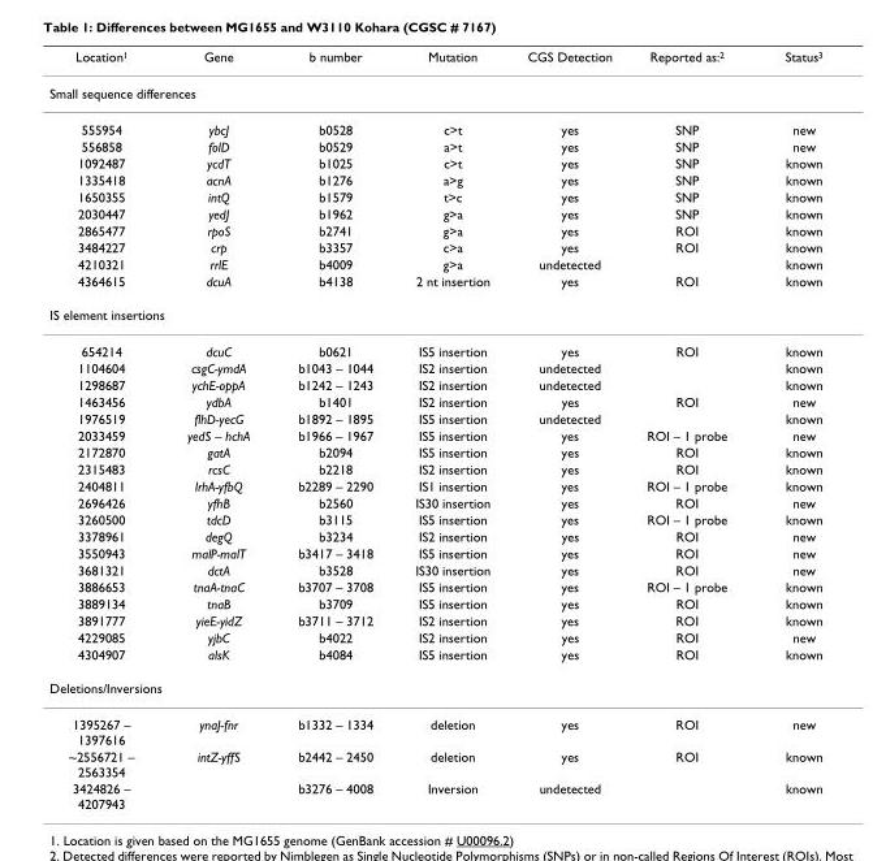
<table><thead><tr><td>Location<sup>1</sup></td><td>Gene</td><td>b number</td><td>Mutation</td><td>CGS Detection</td><td>Reported as:<sup>2</sup></td><td>Status<sup>3</sup></td></tr></thead><tbody><tr><td colspan="7">Small sequence differences</td></tr><tr><td>555954</td><td>ybcJ</td><td>b0528</td><td>c&gt;t</td><td>yes</td><td>SNP</td><td>new</td></tr><tr><td>556858</td><td>folD</td><td>b0529</td><td>a&gt;t</td><td>yes</td><td>SNP</td><td>new</td></tr><tr><td>1092487</td><td>ycdT</td><td>b1025</td><td>c&gt;t</td><td>yes</td><td>SNP</td><td>known</td></tr><tr><td>1335418</td><td>acnA</td><td>b1276</td><td>a&gt;g</td><td>yes</td><td>SNP</td><td>known</td></tr><tr><td>1650355</td><td>intQ</td><td>b1579</td><td>t&gt;c</td><td>yes</td><td>SNP</td><td>known</td></tr><tr><td>2030447</td><td>yedJ</td><td>b1962</td><td>g&gt;a</td><td>yes</td><td>SNP</td><td>known</td></tr><tr><td>2865477</td><td>rpoS</td><td>b2741</td><td>g&gt;a</td><td>yes</td><td>ROI</td><td>known</td></tr><tr><td>3484227</td><td>crp</td><td>b3357</td><td>c&gt;a</td><td>yes</td><td>ROI</td><td>known</td></tr><tr><td>4210321</td><td>rrlE</td><td>b4009</td><td>g&gt;a</td><td>undetected</td><td></td><td>known</td></tr><tr><td>4364615</td><td>dcuA</td><td>b4138</td><td>2 nt insertion</td><td>yes</td><td>ROI</td><td>known</td></tr><tr><td colspan="7">IS element insertions</td></tr><tr><td>654214</td><td>dcuC</td><td>b0621</td><td>IS5 insertion</td><td>yes</td><td>ROI</td><td>known</td></tr><tr><td>1104604</td><td>csgC-ymdA</td><td>b1043 – 1044</td><td>IS2 insertion</td><td>undetected</td><td></td><td>known</td></tr><tr><td>1298687</td><td>ychE-oppA</td><td>b1242 – 1243</td><td>IS2 insertion</td><td>undetected</td><td></td><td>known</td></tr><tr><td>1463456</td><td>ydbA</td><td>b1401</td><td>IS2 insertion</td><td>yes</td><td>ROI</td><td>new</td></tr><tr><td>1976519</td><td>flhD-yecG</td><td>b1892 – 1895</td><td>IS5 insertion</td><td>undetected</td><td></td><td>known</td></tr><tr><td>2033459</td><td>yedS – hchA</td><td>b1966 – 1967</td><td>IS5 insertion</td><td>yes</td><td>ROI – 1 probe</td><td>new</td></tr><tr><td>2172870</td><td>gatA</td><td>b2094</td><td>IS5 insertion</td><td>yes</td><td>ROI</td><td>known</td></tr><tr><td>2315483</td><td>rcsC</td><td>b2218</td><td>IS2 insertion</td><td>yes</td><td>ROI</td><td>known</td></tr><tr><td>2404811</td><td>lrhA-yfbQ</td><td>b2289 – 2290</td><td>IS1 insertion</td><td>yes</td><td>ROI – 1 probe</td><td>known</td></tr><tr><td>2696426</td><td>yfhB</td><td>b2560</td><td>IS30 insertion</td><td>yes</td><td>ROI</td><td>new</td></tr><tr><td>3260500</td><td>tdcD</td><td>b3115</td><td>IS5 insertion</td><td>yes</td><td>ROI – 1 probe</td><td>known</td></tr><tr><td>3378961</td><td>degQ</td><td>b3234</td><td>IS2 insertion</td><td>yes</td><td>ROI</td><td>new</td></tr><tr><td>3550943</td><td>malP-malT</td><td>b3417 – 3418</td><td>IS5 insertion</td><td>yes</td><td>ROI</td><td>new</td></tr><tr><td>3681321</td><td>dctA</td><td>b3528</td><td>IS30 insertion</td><td>yes</td><td>ROI</td><td>new</td></tr><tr><td>3886653</td><td>tnaA-tnaC</td><td>b3707 – 3708</td><td>IS5 insertion</td><td>yes</td><td>ROI – 1 probe</td><td>known</td></tr><tr><td>3889134</td><td>tnaB</td><td>b3709</td><td>IS5 insertion</td><td>yes</td><td>ROI</td><td>known</td></tr><tr><td>3891777</td><td>yieE-yidZ</td><td>b3711 – 3712</td><td>IS2 insertion</td><td>yes</td><td>ROI</td><td>known</td></tr><tr><td>4229085</td><td>yjbC</td><td>b4022</td><td>IS2 insertion</td><td>yes</td><td>ROI</td><td>new</td></tr><tr><td>4304907</td><td>alsK</td><td>b4084</td><td>IS5 insertion</td><td>yes</td><td>ROI</td><td>known</td></tr><tr><td colspan="7">Deletions/Inversions</td></tr><tr><td>1395267 – 1397616</td><td>ynaJ-fnr</td><td>b1332 – 1334</td><td>deletion</td><td>yes</td><td>ROI</td><td>new</td></tr><tr><td>~2556721 – 2563354</td><td>intZ-yffS</td><td>b2442 – 2450</td><td>deletion</td><td>yes</td><td>ROI</td><td>known</td></tr><tr><td>3424826 – 4207943</td><td></td><td>b3276 – 4008</td><td>Inversion</td><td>undetected</td><td></td><td>known</td></tr></tbody></table>